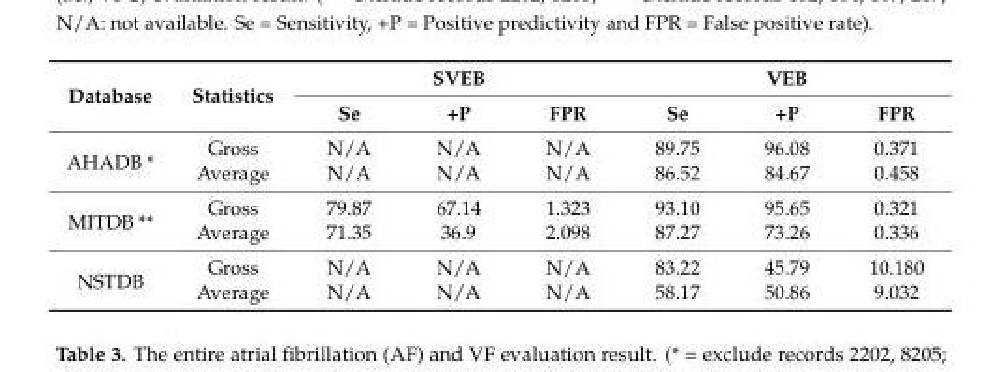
<table><thead><tr><td rowspan="2">Database</td><td rowspan="2">Statistics</td><td colspan="3">SVEB</td><td colspan="3">VEB</td></tr><tr><td>Se</td><td>+P</td><td>FPR</td><td>Se</td><td>+P</td><td>FPR</td></tr></thead><tbody><tr><td rowspan="2">AHADB *</td><td>Gross</td><td>N/A</td><td>N/A</td><td>N/A</td><td>89.75</td><td>96.08</td><td>0.371</td></tr><tr><td>Average</td><td>N/A</td><td>N/A</td><td>N/A</td><td>86.52</td><td>84.67</td><td>0.458</td></tr><tr><td rowspan="2">MITDB **</td><td>Gross</td><td>79.87</td><td>67.14</td><td>1.323</td><td>93.10</td><td>95.65</td><td>0.321</td></tr><tr><td>Average</td><td>71.35</td><td>36.9</td><td>2.098</td><td>87.27</td><td>73.26</td><td>0.336</td></tr><tr><td rowspan="2">NSTDB</td><td>Gross</td><td>N/A</td><td>N/A</td><td>N/A</td><td>83.22</td><td>45.79</td><td>10.180</td></tr><tr><td>Average</td><td>N/A</td><td>N/A</td><td>N/A</td><td>58.17</td><td>50.86</td><td>9.032</td></tr></tbody></table>